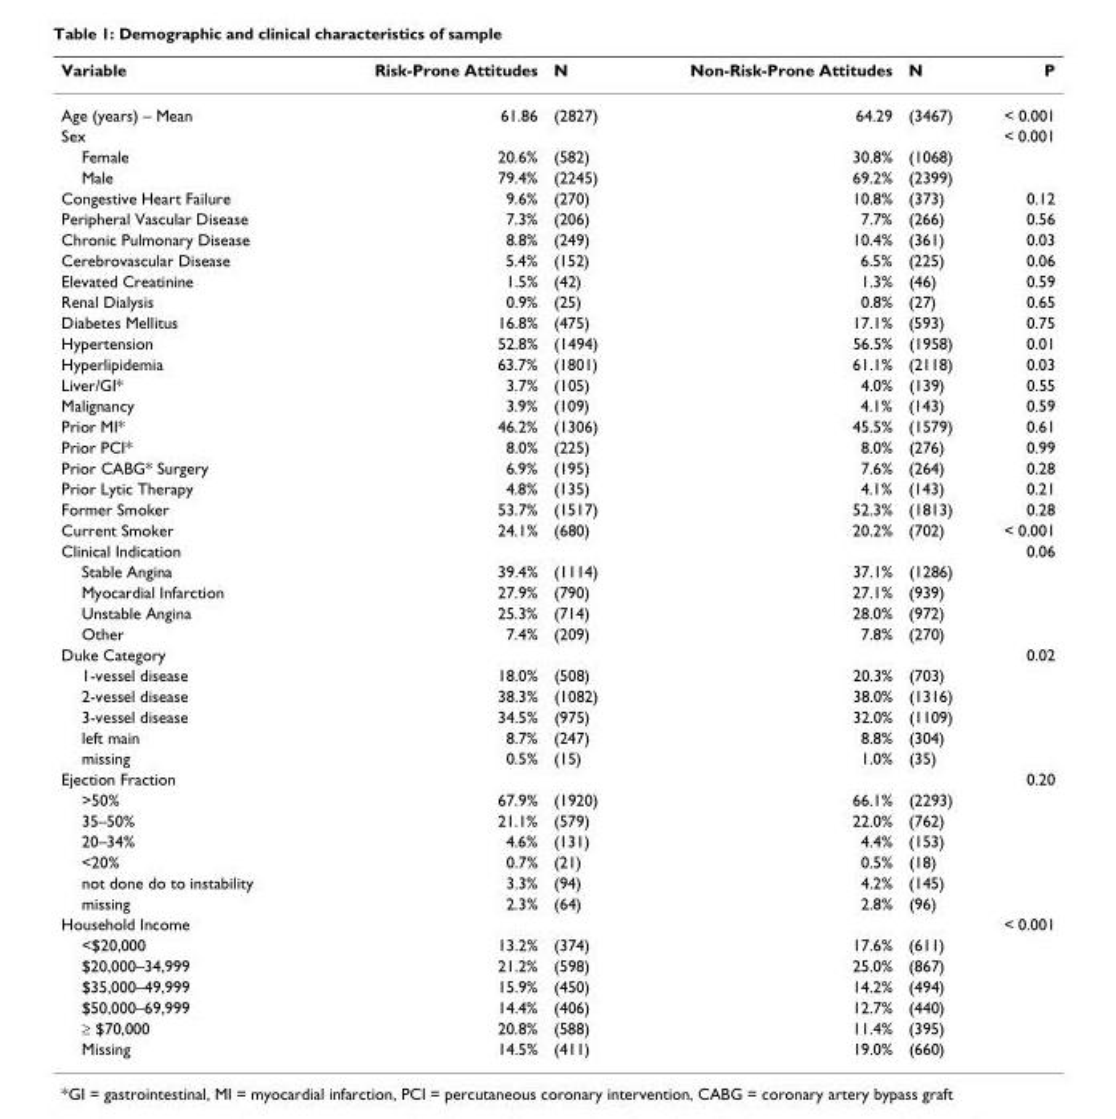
<table><thead><tr><td>Variable</td><td>Risk-Prone Attitudes</td><td>N</td><td>Non-Risk-Prone Attitudes</td><td>N</td><td>P</td></tr></thead><tbody><tr><td>Age (years) – Mean</td><td>61.86</td><td>(2827)</td><td>64.29</td><td>(3467)</td><td>&lt; 0.001</td></tr><tr><td>Sex</td><td></td><td></td><td></td><td></td><td>&lt; 0.001</td></tr><tr><td>Female</td><td>20.6%</td><td>(582)</td><td>30.8%</td><td>(1068)</td><td></td></tr><tr><td>Male</td><td>79.4%</td><td>(2245)</td><td>69.2%</td><td>(2399)</td><td></td></tr><tr><td>Congestive Heart Failure</td><td>9.6%</td><td>(270)</td><td>10.8%</td><td>(373)</td><td>0.12</td></tr><tr><td>Peripheral Vascular Disease</td><td>7.3%</td><td>(206)</td><td>7.7%</td><td>(266)</td><td>0.56</td></tr><tr><td>Chronic Pulmonary Disease</td><td>8.8%</td><td>(249)</td><td>10.4%</td><td>(361)</td><td>0.03</td></tr><tr><td>Cerebrovascular Disease</td><td>5.4%</td><td>(152)</td><td>6.5%</td><td>(225)</td><td>0.06</td></tr><tr><td>Elevated Creatinine</td><td>1.5%</td><td>(42)</td><td>1.3%</td><td>(46)</td><td>0.59</td></tr><tr><td>Renal Dialysis</td><td>0.9%</td><td>(25)</td><td>0.8%</td><td>(27)</td><td>0.65</td></tr><tr><td>Diabetes Mellitus</td><td>16.8%</td><td>(475)</td><td>17.1%</td><td>(593)</td><td>0.75</td></tr><tr><td>Hypertension</td><td>52.8%</td><td>(1494)</td><td>56.5%</td><td>(1958)</td><td>0.01</td></tr><tr><td>Hyperlipidemia</td><td>63.7%</td><td>(1801)</td><td>61.1%</td><td>(2118)</td><td>0.03</td></tr><tr><td>Liver/GI*</td><td>3.7%</td><td>(105)</td><td>4.0%</td><td>(139)</td><td>0.55</td></tr><tr><td>Malignancy</td><td>3.9%</td><td>(109)</td><td>4.1%</td><td>(143)</td><td>0.59</td></tr><tr><td>Prior MI*</td><td>46.2%</td><td>(1306)</td><td>45.5%</td><td>(1579)</td><td>0.61</td></tr><tr><td>Prior PCI*</td><td>8.0%</td><td>(225)</td><td>8.0%</td><td>(276)</td><td>0.99</td></tr><tr><td>Prior CABG* Surgery</td><td>6.9%</td><td>(195)</td><td>7.6%</td><td>(264)</td><td>0.28</td></tr><tr><td>Prior Lytic Therapy</td><td>4.8%</td><td>(135)</td><td>4.1%</td><td>(143)</td><td>0.21</td></tr><tr><td>Former Smoker</td><td>53.7%</td><td>(1517)</td><td>52.3%</td><td>(1813)</td><td>0.28</td></tr><tr><td>Current Smoker</td><td>24.1%</td><td>(680)</td><td>20.2%</td><td>(702)</td><td>&lt; 0.001</td></tr><tr><td>Clinical Indication</td><td></td><td></td><td></td><td></td><td>0.06</td></tr><tr><td>Stable Angina</td><td>39.4%</td><td>(1114)</td><td>37.1%</td><td>(1286)</td><td></td></tr><tr><td>Myocardial Infarction</td><td>27.9%</td><td>(790)</td><td>27.1%</td><td>(939)</td><td></td></tr><tr><td>Unstable Angina</td><td>25.3%</td><td>(714)</td><td>28.0%</td><td>(972)</td><td></td></tr><tr><td>Other</td><td>7.4%</td><td>(209)</td><td>7.8%</td><td>(270)</td><td></td></tr><tr><td>Duke Category</td><td></td><td></td><td></td><td></td><td>0.02</td></tr><tr><td>1-vessel disease</td><td>18.0%</td><td>(508)</td><td>20.3%</td><td>(703)</td><td></td></tr><tr><td>2-vessel disease</td><td>38.3%</td><td>(1082)</td><td>38.0%</td><td>(1316)</td><td></td></tr><tr><td>3-vessel disease</td><td>34.5%</td><td>(975)</td><td>32.0%</td><td>(1109)</td><td></td></tr><tr><td>left main</td><td>8.7%</td><td>(247)</td><td>8.8%</td><td>(304)</td><td></td></tr><tr><td>missing</td><td>0.5%</td><td>(15)</td><td>1.0%</td><td>(35)</td><td></td></tr><tr><td>Ejection Fraction</td><td></td><td></td><td></td><td></td><td>0.20</td></tr><tr><td>&gt;50%</td><td>67.9%</td><td>(1920)</td><td>66.1%</td><td>(2293)</td><td></td></tr><tr><td>35–50%</td><td>21.1%</td><td>(579)</td><td>22.0%</td><td>(762)</td><td></td></tr><tr><td>20–34%</td><td>4.6%</td><td>(131)</td><td>4.4%</td><td>(153)</td><td></td></tr><tr><td>&lt;20%</td><td>0.7%</td><td>(21)</td><td>0.5%</td><td>(18)</td><td></td></tr><tr><td>not done do to instability</td><td>3.3%</td><td>(94)</td><td>4.2%</td><td>(145)</td><td></td></tr><tr><td>missing</td><td>2.3%</td><td>(64)</td><td>2.8%</td><td>(96)</td><td></td></tr><tr><td>Household Income</td><td></td><td></td><td></td><td></td><td>&lt; 0.001</td></tr><tr><td>&lt;$20,000</td><td>13.2%</td><td>(374)</td><td>17.6%</td><td>(611)</td><td></td></tr><tr><td>$20,000–34,999</td><td>21.2%</td><td>(598)</td><td>25.0%</td><td>(867)</td><td></td></tr><tr><td>$35,000–49,999</td><td>15.9%</td><td>(450)</td><td>14.2%</td><td>(494)</td><td></td></tr><tr><td>$50,000–69,999</td><td>14.4%</td><td>(406)</td><td>12.7%</td><td>(440)</td><td></td></tr><tr><td>≥ $70,000</td><td>20.8%</td><td>(588)</td><td>11.4%</td><td>(395)</td><td></td></tr><tr><td>Missing</td><td>14.5%</td><td>(411)</td><td>19.0%</td><td>(660)</td><td></td></tr></tbody></table>